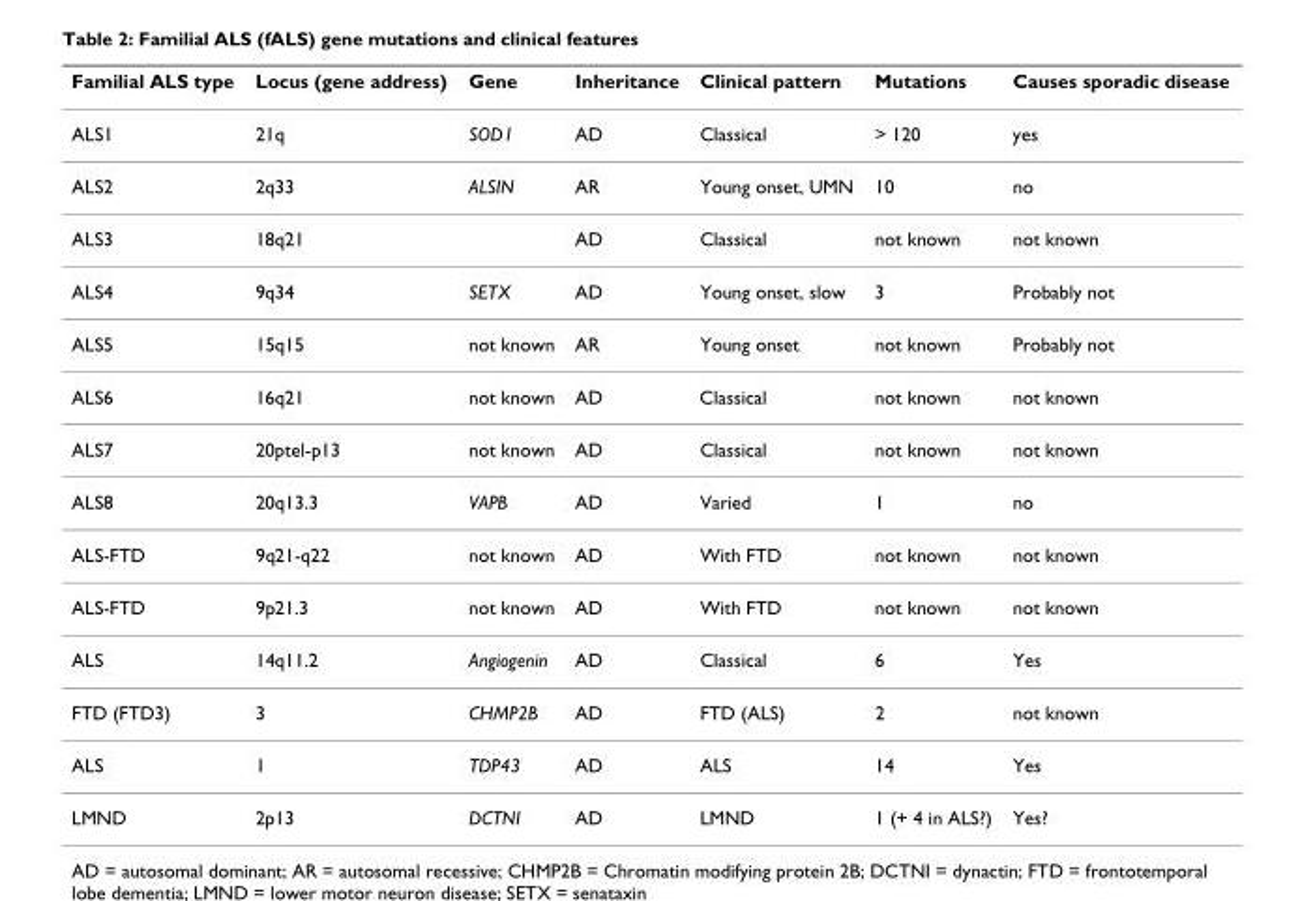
<table><thead><tr><td>Familial ALS type</td><td>Locus (gene address)</td><td>Gene</td><td>Inheritance</td><td>Clinical pattern</td><td>Mutations</td><td>Causes sporadic disease</td></tr></thead><tbody><tr><td>ALS1</td><td>21q</td><td>SOD1</td><td>AD</td><td>Classical</td><td>&gt; 120</td><td>yes</td></tr><tr><td>ALS2</td><td>2q33</td><td>ALSIN</td><td>AR</td><td>Young onset, UMN</td><td>10</td><td>no</td></tr><tr><td>ALS3</td><td>18q21</td><td></td><td>AD</td><td>Classical</td><td>not known</td><td>not known</td></tr><tr><td>ALS4</td><td>9q34</td><td>SETX</td><td>AD</td><td>Young onset, slow</td><td>3</td><td>Probably not</td></tr><tr><td>ALS5</td><td>15q15</td><td>not known</td><td>AR</td><td>Young onset</td><td>not known</td><td>Probably not</td></tr><tr><td>ALS6</td><td>16q21</td><td>not known</td><td>AD</td><td>Classical</td><td>not known</td><td>not known</td></tr><tr><td>ALS7</td><td>20ptel-p13</td><td>not known</td><td>AD</td><td>Classical</td><td>not known</td><td>not known</td></tr><tr><td>ALS8</td><td>20q13.3</td><td>VAPB</td><td>AD</td><td>Varied</td><td>1</td><td>no</td></tr><tr><td>ALS-FTD</td><td>9q21-q22</td><td>not known</td><td>AD</td><td>With FTD</td><td>not known</td><td>not known</td></tr><tr><td>ALS-FTD</td><td>9p21.3</td><td>not known</td><td>AD</td><td>With FTD</td><td>not known</td><td>not known</td></tr><tr><td>ALS</td><td>14q11.2</td><td>Angiogenin</td><td>AD</td><td>Classical</td><td>6</td><td>Yes</td></tr><tr><td>FTD (FTD3)</td><td>3</td><td>CHMP2B</td><td>AD</td><td>FTD (ALS)</td><td>2</td><td>not known</td></tr><tr><td>ALS</td><td>1</td><td>TDP43</td><td>AD</td><td>ALS</td><td>14</td><td>Yes</td></tr><tr><td>LMND</td><td>2p13</td><td>DCTNI</td><td>AD</td><td>LMND</td><td>1 (+ 4 in ALS?)</td><td>Yes?</td></tr></tbody></table>